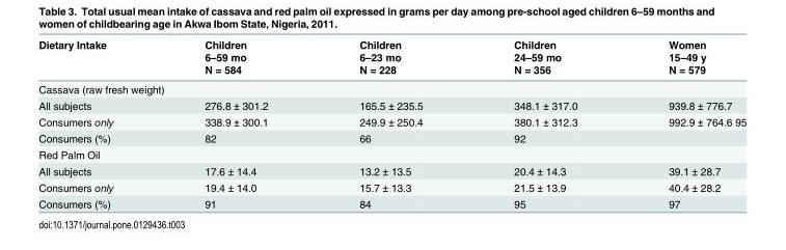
<table><thead><tr><td rowspan="3">Dietary Intake</td><td rowspan="3">Children 6–59 mo N = 584</td><td rowspan="3">Children 6–23 mo N = 228</td><td rowspan="3">Children 24–59 mo N = 356</td><td rowspan="3">Women 15–49 y N = 579</td></tr><tr></tr><tr></tr></thead><tbody><tr><td colspan="5">Cassava (raw fresh weight)</td></tr><tr><td>All subjects</td><td>276.8 ± 301.2</td><td>165.5 ± 235.5</td><td>348.1 ± 317.0</td><td>939.8 ± 776.7</td></tr><tr><td>Consumers only</td><td>338.9 ± 300.1</td><td>249.9 ± 250.4</td><td>380.1 ± 312.3</td><td>992.9 ± 764.6 95</td></tr><tr><td>Consumers (%)</td><td>82</td><td>66</td><td>92</td><td></td></tr><tr><td colspan="5">Red Palm Oil</td></tr><tr><td>All subjects</td><td>17.6 ± 14.4</td><td>13.2 ± 13.5</td><td>20.4 ± 14.3</td><td>39.1 ± 28.7</td></tr><tr><td>Consumers only</td><td>19.4 ± 14.0</td><td>15.7 ± 13.3</td><td>21.5 ± 13.9</td><td>40.4 ± 28.2</td></tr><tr><td>Consumers (%)</td><td>91</td><td>84</td><td>95</td><td>97</td></tr></tbody></table>